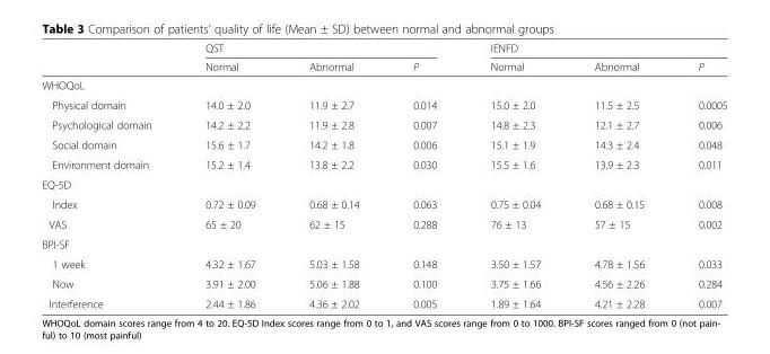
<table><thead><tr><td rowspan="2"></td><td colspan="3">QST</td><td colspan="3">IENFD</td></tr><tr><td>Normal</td><td>Abnormal</td><td>P</td><td>Normal</td><td>Abnormal</td><td>P</td></tr></thead><tbody><tr><td colspan="7">WHOQoL</td></tr><tr><td>Physical domain</td><td>14.0 ± 2.0</td><td>11.9 ± 2.7</td><td>0.014</td><td>15.0 ± 2.0</td><td>11.5 ± 2.5</td><td>0.0005</td></tr><tr><td>Psychological domain</td><td>14.2 ± 2.2</td><td>11.9 ± 2.8</td><td>0.007</td><td>14.8 ± 2.3</td><td>12.1 ± 2.7</td><td>0.006</td></tr><tr><td>Social domain</td><td>15.6 ± 1.7</td><td>14.2 ± 1.8</td><td>0.006</td><td>15.1 ± 1.9</td><td>14.3 ± 2.4</td><td>0.048</td></tr><tr><td>Environment domain</td><td>15.2 ± 1.4</td><td>13.8 ± 2.2</td><td>0.030</td><td>15.5 ± 1.6</td><td>13.9 ± 2.3</td><td>0.011</td></tr><tr><td colspan="7">EQ-5D</td></tr><tr><td>Index</td><td>0.72 ± 0.09</td><td>0.68 ± 0.14</td><td>0.063</td><td>0.75 ± 0.04</td><td>0.68 ± 0.15</td><td>0.008</td></tr><tr><td>VAS</td><td>65 ± 20</td><td>62 ± 15</td><td>0.288</td><td>76 ± 13</td><td>57 ± 15</td><td>0.002</td></tr><tr><td colspan="7">BPI-SF</td></tr><tr><td>1 week</td><td>4.32 ± 1.67</td><td>5.03 ± 1.58</td><td>0.148</td><td>3.50 ± 1.57</td><td>4.78 ± 1.56</td><td>0.033</td></tr><tr><td>Now</td><td>3.91 ± 2.00</td><td>5.06 ± 1.88</td><td>0.100</td><td>3.75 ± 1.66</td><td>4.56 ± 2.26</td><td>0.284</td></tr><tr><td>Interference</td><td>2.44 ± 1.86</td><td>4.36 ± 2.02</td><td>0.005</td><td>1.89 ± 1.64</td><td>4.21 ± 2.28</td><td>0.007</td></tr></tbody></table>